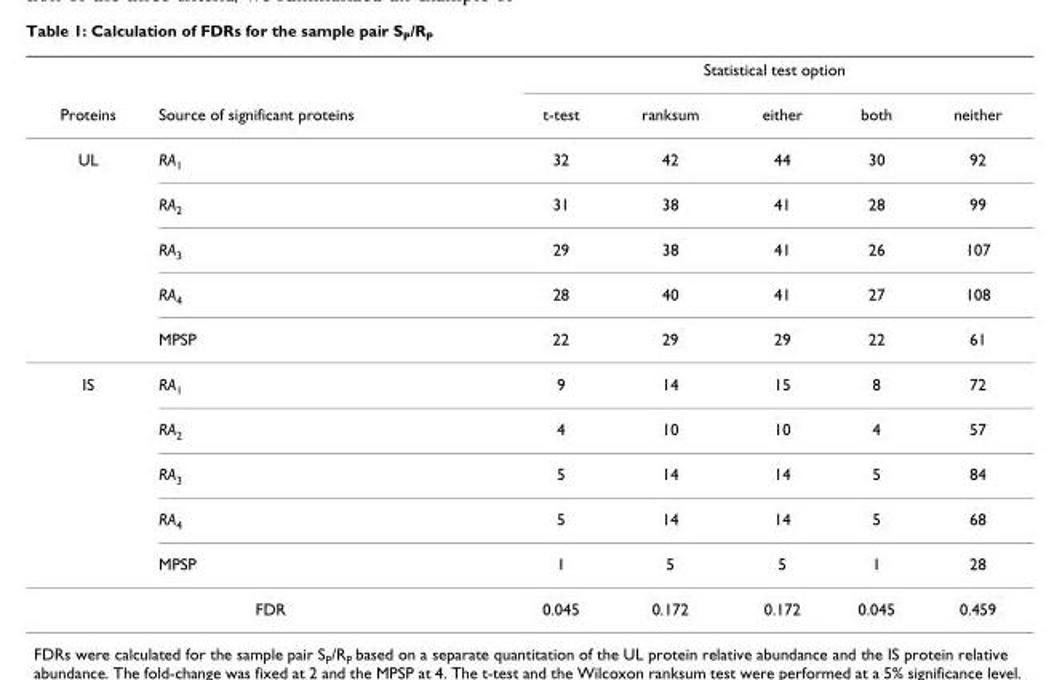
<table><thead><tr><td rowspan="2">Proteins</td><td rowspan="2">Source of significant proteins</td><td colspan="5">Statistical test option</td></tr><tr><td>t-test</td><td>ranksum</td><td>either</td><td>both</td><td>neither</td></tr></thead><tbody><tr><td rowspan="5">UL</td><td>RA<sub>1</sub></td><td>32</td><td>42</td><td>44</td><td>30</td><td>92</td></tr><tr><td>RA<sub>2</sub></td><td>31</td><td>38</td><td>41</td><td>28</td><td>99</td></tr><tr><td>RA<sub>3</sub></td><td>29</td><td>38</td><td>41</td><td>26</td><td>107</td></tr><tr><td>RA<sub>4</sub></td><td>28</td><td>40</td><td>41</td><td>27</td><td>108</td></tr><tr><td>MPSP</td><td>22</td><td>29</td><td>29</td><td>22</td><td>61</td></tr><tr><td rowspan="5">IS</td><td>RA<sub>1</sub></td><td>9</td><td>14</td><td>15</td><td>8</td><td>72</td></tr><tr><td>RA<sub>2</sub></td><td>4</td><td>10</td><td>10</td><td>4</td><td>57</td></tr><tr><td>RA<sub>3</sub></td><td>5</td><td>14</td><td>14</td><td>5</td><td>84</td></tr><tr><td>RA<sub>4</sub></td><td>5</td><td>14</td><td>14</td><td>5</td><td>68</td></tr><tr><td>MPSP</td><td>1</td><td>5</td><td>5</td><td>1</td><td>28</td></tr><tr><td colspan="2">FDR</td><td>0.045</td><td>0.172</td><td>0.172</td><td>0.045</td><td>0.459</td></tr></tbody></table>